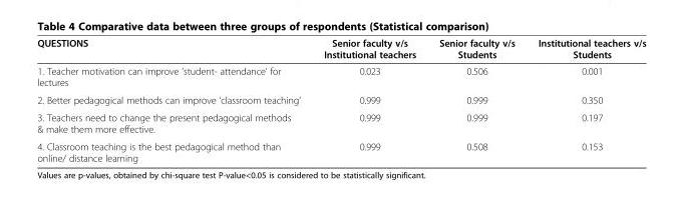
<table><thead><tr><td>QUESTIONS</td><td>Senior faculty v/s Institutional teachers</td><td>Senior faculty v/s Students</td><td>Institutional teachers v/s Students</td></tr></thead><tbody><tr><td>1. Teacher motivation can improve ‘student- attendance’ for lectures</td><td>0.023</td><td>0.506</td><td>0.001</td></tr><tr><td>2. Better pedagogical methods can improve ‘classroom teaching’</td><td>0.999</td><td>0.999</td><td>0.350</td></tr><tr><td>3. Teachers need to change the present pedagogical methods &amp; make them more effective.</td><td>0.999</td><td>0.999</td><td>0.197</td></tr><tr><td>4. Classroom teaching is the best pedagogical method than online/ distance learning</td><td>0.999</td><td>0.508</td><td>0.153</td></tr></tbody></table>